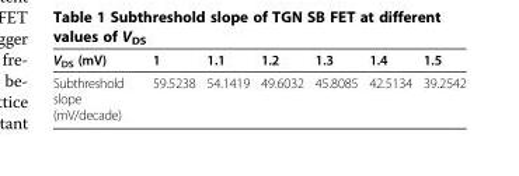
<table><thead><tr><td>V<sub>DS</sub> (mV)</td><td>1</td><td>1.1</td><td>1.2</td><td>1.3</td><td>1.4</td><td>1.5</td></tr></thead><tbody><tr><td>Subthreshold slope (mV/decade)</td><td>59.5238</td><td>54.1419</td><td>49.6032</td><td>45.8085</td><td>42.5134</td><td>39.2542</td></tr></tbody></table>